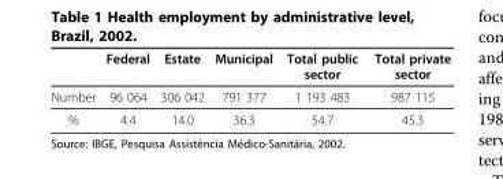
<table><thead><tr><td></td><td>Federal</td><td>Estate</td><td>Municipal</td><td>Total public sector</td><td>Total private sector</td></tr></thead><tbody><tr><td>Number</td><td>96 064</td><td>306 042</td><td>791 377</td><td>1 193 483</td><td>987 115</td></tr><tr><td>%</td><td>4.4</td><td>14.0</td><td>36.3</td><td>54.7</td><td>45.3</td></tr></tbody></table>